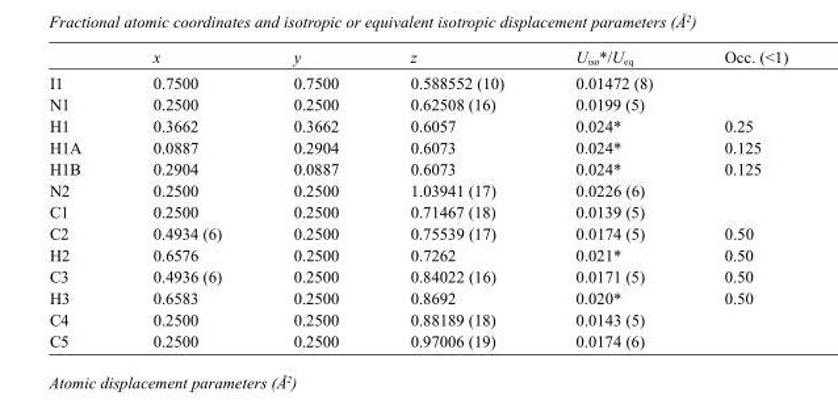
<table><thead><tr><td></td><td>x</td><td>y</td><td>z</td><td>U<sub>iso</sub>*/U<sub>eq</sub></td><td>Occ. (&lt;1)</td></tr></thead><tbody><tr><td>I1</td><td>0.7500</td><td>0.7500</td><td>0.588552 (10)</td><td>0.01472 (8)</td><td></td></tr><tr><td>N1</td><td>0.2500</td><td>0.2500</td><td>0.62508 (16)</td><td>0.0199 (5)</td><td></td></tr><tr><td>H1</td><td>0.3662</td><td>0.3662</td><td>0.6057</td><td>0.024*</td><td>0.25</td></tr><tr><td>H1A</td><td>0.0887</td><td>0.2904</td><td>0.6073</td><td>0.024*</td><td>0.125</td></tr><tr><td>H1B</td><td>0.2904</td><td>0.0887</td><td>0.6073</td><td>0.024*</td><td>0.125</td></tr><tr><td>N2</td><td>0.2500</td><td>0.2500</td><td>1.03941 (17)</td><td>0.0226 (6)</td><td></td></tr><tr><td>C1</td><td>0.2500</td><td>0.2500</td><td>0.71467 (18)</td><td>0.0139 (5)</td><td></td></tr><tr><td>C2</td><td>0.4934 (6)</td><td>0.2500</td><td>0.75539 (17)</td><td>0.0174 (5)</td><td>0.50</td></tr><tr><td>H2</td><td>0.6576</td><td>0.2500</td><td>0.7262</td><td>0.021*</td><td>0.50</td></tr><tr><td>C3</td><td>0.4936 (6)</td><td>0.2500</td><td>0.84022 (16)</td><td>0.0171 (5)</td><td>0.50</td></tr><tr><td>H3</td><td>0.6583</td><td>0.2500</td><td>0.8692</td><td>0.020*</td><td>0.50</td></tr><tr><td>C4</td><td>0.2500</td><td>0.2500</td><td>0.88189 (18)</td><td>0.0143 (5)</td><td></td></tr><tr><td>C5</td><td>0.2500</td><td>0.2500</td><td>0.97006 (19)</td><td>0.0174 (6)</td><td></td></tr></tbody></table>